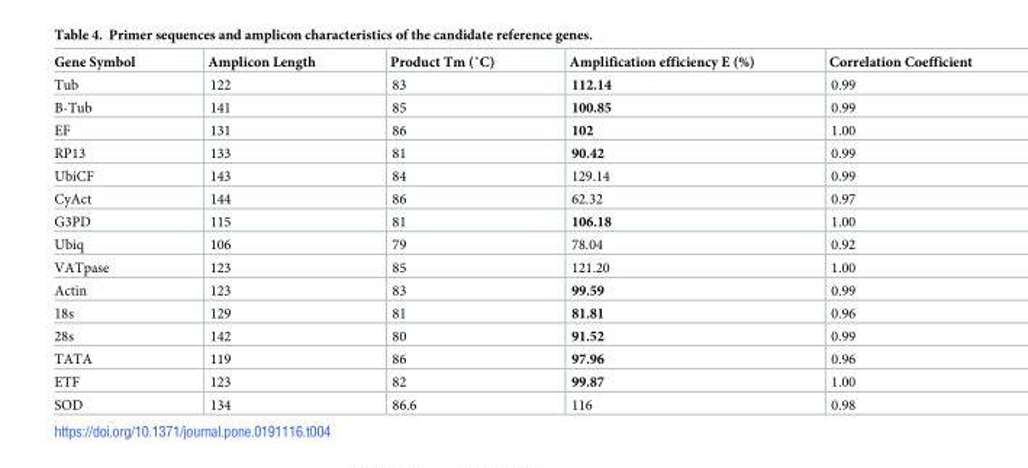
<table><thead><tr><td>Gene Symbol</td><td>Amplicon Length</td><td>Product Tm (˚C)</td><td>Amplification efficiency E (%)</td><td>Correlation Coefficient</td></tr></thead><tbody><tr><td>Tub</td><td>122</td><td>83</td><td>112.14</td><td>0.99</td></tr><tr><td>B-Tub</td><td>141</td><td>85</td><td>100.85</td><td>0.99</td></tr><tr><td>EF</td><td>131</td><td>86</td><td>102</td><td>1.00</td></tr><tr><td>RP13</td><td>133</td><td>81</td><td>90.42</td><td>0.99</td></tr><tr><td>UbiCF</td><td>143</td><td>84</td><td>129.14</td><td>0.99</td></tr><tr><td>CyAct</td><td>144</td><td>86</td><td>62.32</td><td>0.97</td></tr><tr><td>G3PD</td><td>115</td><td>81</td><td>106.18</td><td>1.00</td></tr><tr><td>Ubiq</td><td>106</td><td>79</td><td>78.04</td><td>0.92</td></tr><tr><td>VATpase</td><td>123</td><td>85</td><td>121.20</td><td>1.00</td></tr><tr><td>Actin</td><td>123</td><td>83</td><td>99.59</td><td>0.99</td></tr><tr><td>18s</td><td>129</td><td>81</td><td>81.81</td><td>0.96</td></tr><tr><td>28s</td><td>142</td><td>80</td><td>91.52</td><td>0.99</td></tr><tr><td>TATA</td><td>119</td><td>86</td><td>97.96</td><td>0.96</td></tr><tr><td>ETF</td><td>123</td><td>82</td><td>99.87</td><td>1.00</td></tr><tr><td>SOD</td><td>134</td><td>86.6</td><td>116</td><td>0.98</td></tr></tbody></table>